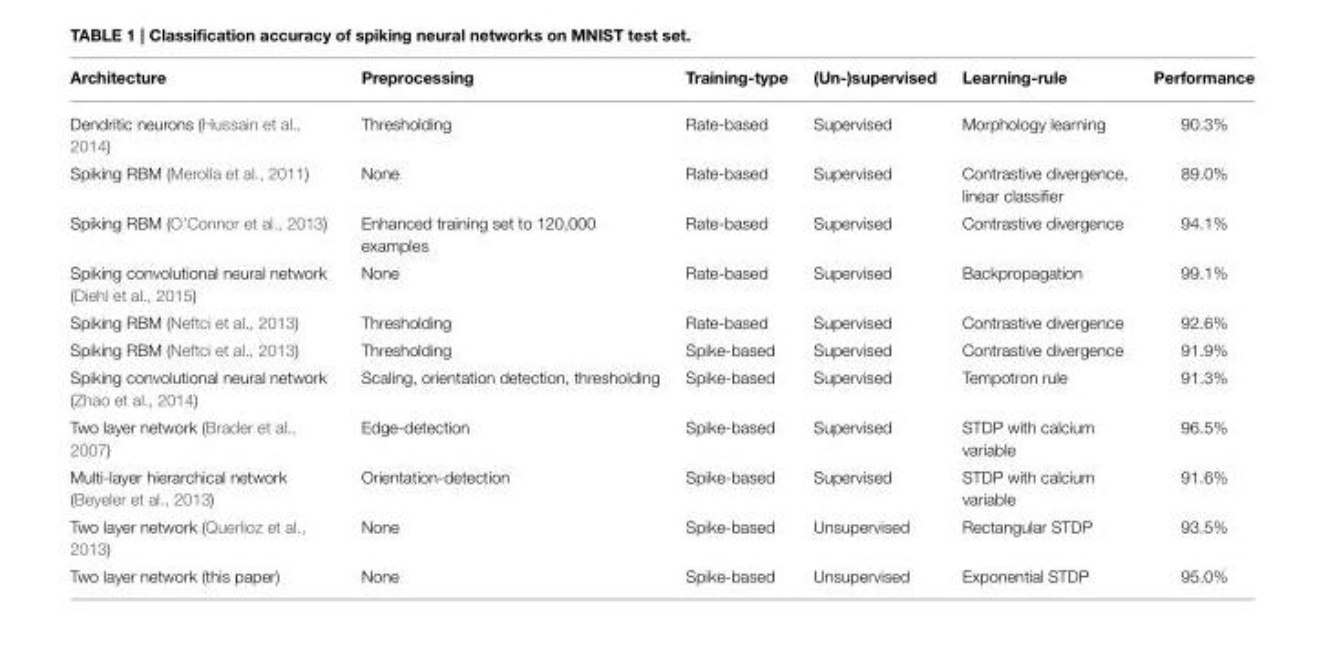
<table><thead><tr><td>Architecture</td><td>Preprocessing</td><td>Training-type</td><td>(Un-)supervised</td><td>Learning-rule</td><td>Performance</td></tr></thead><tbody><tr><td>Dendritic neurons (Hussain et al., 2014)</td><td>Thresholding</td><td>Rate-based</td><td>Supervised</td><td>Morphology learning</td><td>90.3%</td></tr><tr><td>Spiking RBM (Merolla et al., 2011)</td><td>None</td><td>Rate-based</td><td>Supervised</td><td>Contrastive divergence, linear classifier</td><td>89.0%</td></tr><tr><td>Spiking RBM (O’Connor et al., 2013)</td><td>Enhanced training set to 120,000 examples</td><td>Rate-based</td><td>Supervised</td><td>Contrastive divergence</td><td>94.1%</td></tr><tr><td>Spiking convolutional neural network (Diehl et al., 2015)</td><td>None</td><td>Rate-based</td><td>Supervised</td><td>Backpropagation</td><td>99.1%</td></tr><tr><td>Spiking RBM (Neftci et al., 2013)</td><td>Thresholding</td><td>Rate-based</td><td>Supervised</td><td>Contrastive divergence</td><td>92.6%</td></tr><tr><td>Spiking RBM (Neftci et al., 2013)</td><td>Thresholding</td><td>Spike-based</td><td>Supervised</td><td>Contrastive divergence</td><td>91.9%</td></tr><tr><td>Spiking convolutional neural network (Zhao et al., 2014)</td><td>Scaling, orientation detection, thresholding</td><td>Spike-based</td><td>Supervised</td><td>Tempotron rule</td><td>91.3%</td></tr><tr><td>Two layer network (Brader et al., 2007)</td><td>Edge-detection</td><td>Spike-based</td><td>Supervised</td><td>STDP with calcium variable</td><td>96.5%</td></tr><tr><td>Multi-layer hierarchical network (Beyeler et al., 2013)</td><td>Orientation-detection</td><td>Spike-based</td><td>Supervised</td><td>STDP with calcium variable</td><td>91.6%</td></tr><tr><td>Two layer network (Querlioz et al., 2013)</td><td>None</td><td>Spike-based</td><td>Unsupervised</td><td>Rectangular STDP</td><td>93.5%</td></tr><tr><td>Two layer network (this paper)</td><td>None</td><td>Spike-based</td><td>Unsupervised</td><td>Exponential STDP</td><td>95.0%</td></tr></tbody></table>